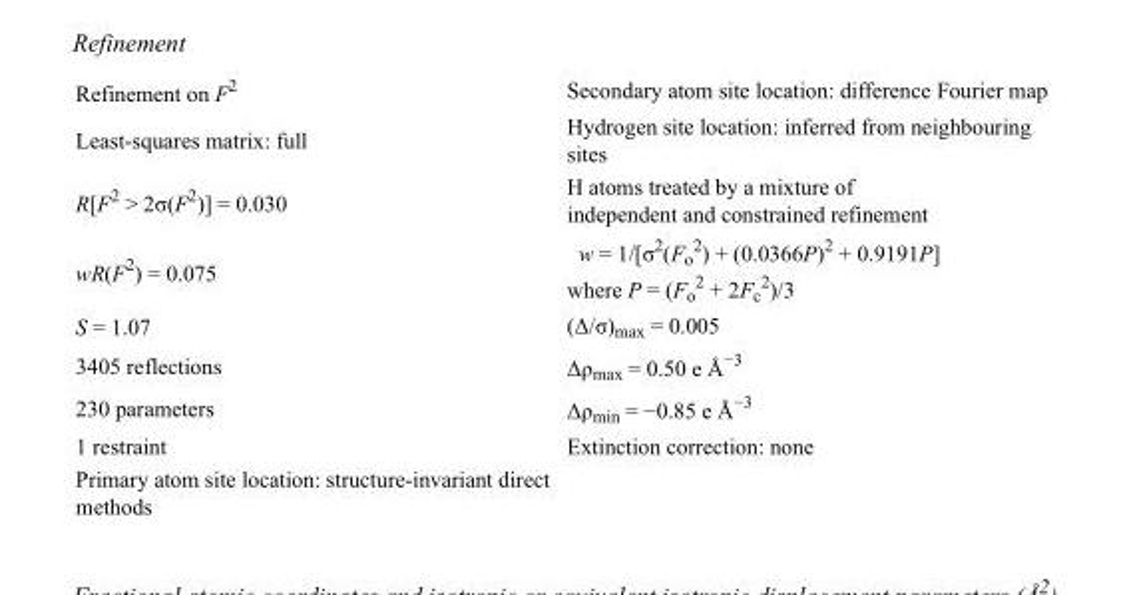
<table><tbody><tr><td>Refinement on F<sup>2</sup></td><td>Secondary atom site location: difference Fourier map</td></tr><tr><td>Least-squares matrix: full</td><td>Hydrogen site location: inferred from neighbouring sites</td></tr><tr><td>R[F<sup>2</sup> &gt; 2σ(F<sup>2</sup>)] = 0.030</td><td>H atoms treated by a mixture of independent and constrained refinement</td></tr><tr><td>wR(F<sup>2</sup>) = 0.075</td><td>w = 1/[σ<sup>2</sup>(F<sub>o</sub> <sup>2</sup>) + (0.0366P)<sup>2</sup> + 0.9191P] where P = (F<sub>o</sub> <sup>2</sup> + 2F<sub>c</sub> <sup>2</sup>)/3</td></tr><tr><td>S = 1.07</td><td>(Δ/σ)<sub>max</sub> = 0.005</td></tr><tr><td>3405 reflections</td><td>Δρ<sub>max</sub> = 0.50 e Å<sup>−3</sup></td></tr><tr><td>230 parameters</td><td>Δρ<sub>min</sub> = −0.85 e Å<sup>−3</sup></td></tr><tr><td>1 restraint</td><td>Extinction correction: none</td></tr><tr><td>Primary atom site location: structure-invariant direct methods</td><td></td></tr></tbody></table>